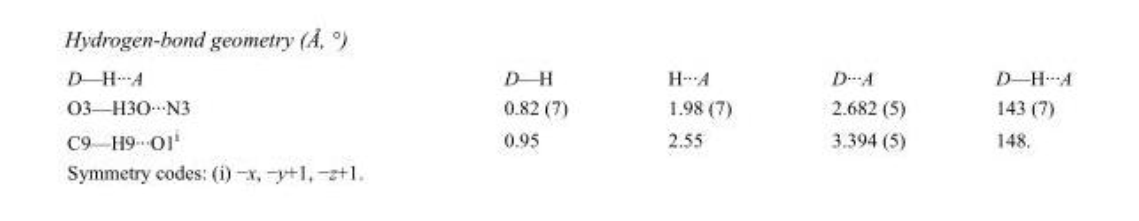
<table><tbody><tr><td>D—H···A</td><td>D—H</td><td>H···A</td><td>D···A</td><td>D—H···A</td></tr><tr><td>O3—H3O···N3</td><td>0.82 (7)</td><td>1.98 (7)</td><td>2.682 (5)</td><td>143 (7)</td></tr><tr><td>C9—H9···O1<sup>i</sup></td><td>0.95</td><td>2.55</td><td>3.394 (5)</td><td>148.</td></tr></tbody></table>